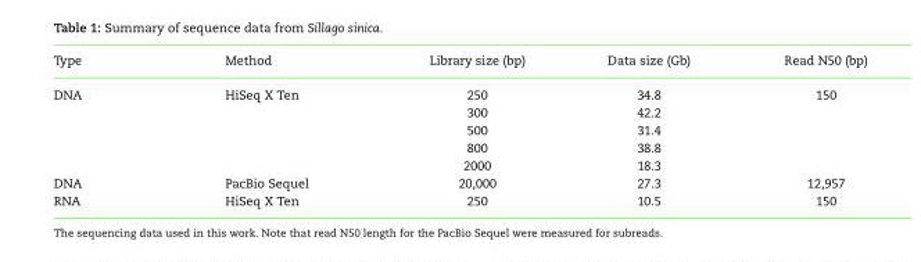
<table><thead><tr><td>Type</td><td>Method</td><td>Library size (bp)</td><td>Data size (Gb)</td><td>Read N50 (bp)</td></tr></thead><tbody><tr><td rowspan="5">DNA</td><td>HiSeq X Ten</td><td>250</td><td>34.8</td><td>150</td></tr><tr><td></td><td>300</td><td>42.2</td><td></td></tr><tr><td></td><td>500</td><td>31.4</td><td></td></tr><tr><td></td><td>800</td><td>38.8</td><td></td></tr><tr><td></td><td>2000</td><td>18.3</td><td></td></tr><tr><td>DNA</td><td>PacBio Sequel</td><td>20,000</td><td>27.3</td><td>12,957</td></tr><tr><td>RNA</td><td>HiSeq X Ten</td><td>250</td><td>10.5</td><td>150</td></tr></tbody></table>